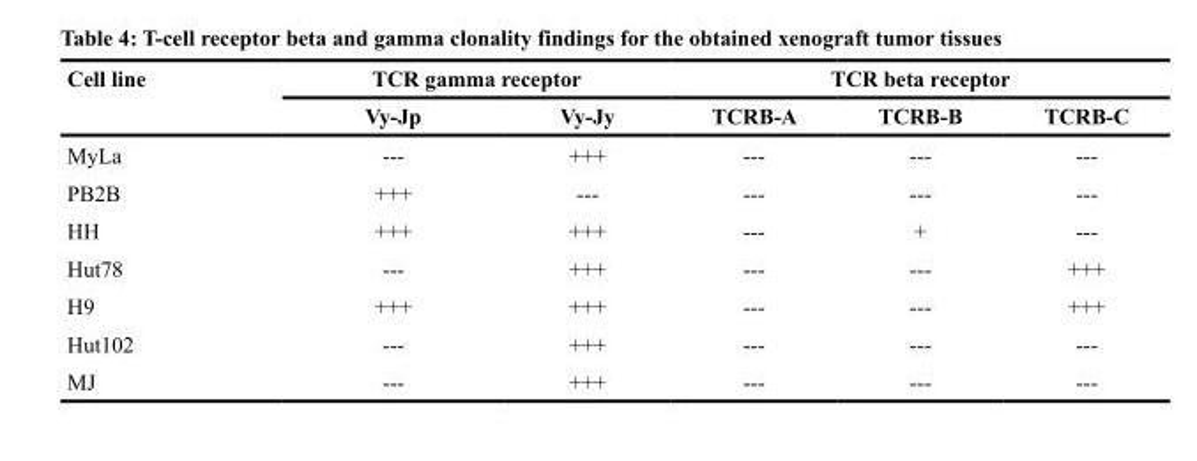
<table><thead><tr><td rowspan="2">Cell line</td><td colspan="2">TCR gamma receptor</td><td colspan="3">TCR beta receptor</td></tr><tr><td>Vy-Jp</td><td>Vy-Jy</td><td>TCRB-A</td><td>TCRB-B</td><td>TCRB-C</td></tr></thead><tbody><tr><td>MyLa</td><td>---</td><td>+++</td><td>---</td><td>---</td><td>---</td></tr><tr><td>PB2B</td><td>+++</td><td>---</td><td>---</td><td>---</td><td>---</td></tr><tr><td>HH</td><td>+++</td><td>+++</td><td>---</td><td>+</td><td>---</td></tr><tr><td>Hut78</td><td>---</td><td>+++</td><td>---</td><td>---</td><td>+++</td></tr><tr><td>H9</td><td>+++</td><td>+++</td><td>---</td><td>---</td><td>+++</td></tr><tr><td>Hut102</td><td>---</td><td>+++</td><td>---</td><td>---</td><td>---</td></tr><tr><td>MJ</td><td>---</td><td>+++</td><td>---</td><td>---</td><td>---</td></tr></tbody></table>